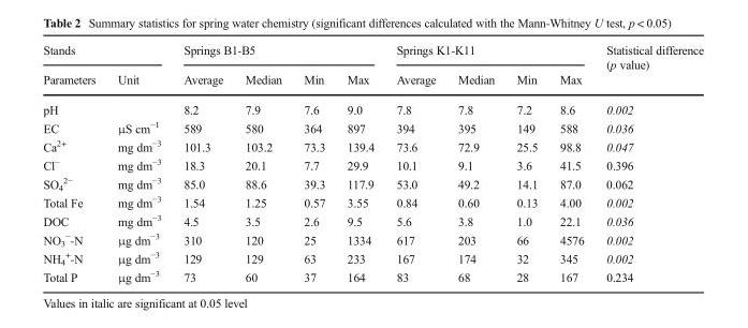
<table><thead><tr><td colspan="2">Stands</td><td colspan="4">Springs B1-B5</td><td colspan="4">Springs K1-K11</td><td rowspan="2">Statistical difference (p value)</td></tr><tr><td>Parameters</td><td>Unit</td><td>Average</td><td>Median</td><td>Min</td><td>Max</td><td>Average</td><td>Median</td><td>Min</td><td>Max</td></tr></thead><tbody><tr><td>pH</td><td></td><td>8.2</td><td>7.9</td><td>7.6</td><td>9.0</td><td>7.8</td><td>7.8</td><td>7.2</td><td>8.6</td><td>0.002</td></tr><tr><td>EC</td><td>μS cm<sup>−1</sup></td><td>589</td><td>580</td><td>364</td><td>897</td><td>394</td><td>395</td><td>149</td><td>588</td><td>0.036</td></tr><tr><td>Ca<sup>2+</sup></td><td>mg dm<sup>−3</sup></td><td>101.3</td><td>103.2</td><td>73.3</td><td>139.4</td><td>73.6</td><td>72.9</td><td>25.5</td><td>98.8</td><td>0.047</td></tr><tr><td>Cl<sup>−</sup></td><td>mg dm<sup>−3</sup></td><td>18.3</td><td>20.1</td><td>7.7</td><td>29.9</td><td>10.1</td><td>9.1</td><td>3.6</td><td>41.5</td><td>0.396</td></tr><tr><td>SO<sub>4</sub> <sup>2−</sup></td><td>mg dm<sup>−3</sup></td><td>85.0</td><td>88.6</td><td>39.3</td><td>117.9</td><td>53.0</td><td>49.2</td><td>14.1</td><td>87.0</td><td>0.062</td></tr><tr><td>Total Fe</td><td>mg dm<sup>−3</sup></td><td>1.54</td><td>1.25</td><td>0.57</td><td>3.55</td><td>0.84</td><td>0.60</td><td>0.13</td><td>4.00</td><td>0.002</td></tr><tr><td>DOC</td><td>mg dm<sup>−3</sup></td><td>4.5</td><td>3.5</td><td>2.6</td><td>9.5</td><td>5.6</td><td>3.8</td><td>1.0</td><td>22.1</td><td>0.036</td></tr><tr><td>NO<sub>3</sub> <sup>−</sup>-N</td><td>μg dm<sup>−3</sup></td><td>310</td><td>120</td><td>25</td><td>1334</td><td>617</td><td>203</td><td>66</td><td>4576</td><td>0.002</td></tr><tr><td>NH<sub>4</sub> <sup>+</sup>-N</td><td>μg dm<sup>−3</sup></td><td>129</td><td>129</td><td>63</td><td>233</td><td>167</td><td>174</td><td>32</td><td>345</td><td>0.002</td></tr><tr><td>Total P</td><td>μg dm<sup>−3</sup></td><td>73</td><td>60</td><td>37</td><td>164</td><td>83</td><td>68</td><td>28</td><td>167</td><td>0.234</td></tr></tbody></table>